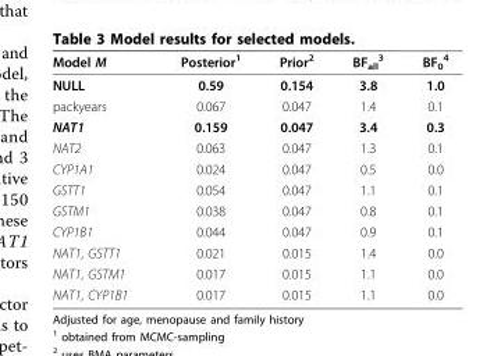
<table><thead><tr><td>Model M</td><td>Posterior<sup>1</sup></td><td>Prior<sup>2</sup></td><td>BF<sub>all</sub> <sup>3</sup></td><td>BF<sub>0</sub> <sup>4</sup></td></tr></thead><tbody><tr><td>NULL</td><td>0.59</td><td>0.154</td><td>3.8</td><td>1.0</td></tr><tr><td>packyears</td><td>0.067</td><td>0.047</td><td>1.4</td><td>0.1</td></tr><tr><td>NAT1</td><td>0.159</td><td>0.047</td><td>3.4</td><td>0.3</td></tr><tr><td>NAT2</td><td>0.063</td><td>0.047</td><td>1.3</td><td>0.1</td></tr><tr><td>CYP1A1</td><td>0.024</td><td>0.047</td><td>0.5</td><td>0.0</td></tr><tr><td>GSTT1</td><td>0.054</td><td>0.047</td><td>1.1</td><td>0.1</td></tr><tr><td>GSTM1</td><td>0.038</td><td>0.047</td><td>0.8</td><td>0.1</td></tr><tr><td>CYP1B1</td><td>0.044</td><td>0.047</td><td>0.9</td><td>0.1</td></tr><tr><td>NAT1, GSTT1</td><td>0.021</td><td>0.015</td><td>1.4</td><td>0.0</td></tr><tr><td>NAT1, GSTM1</td><td>0.017</td><td>0.015</td><td>1.1</td><td>0.0</td></tr><tr><td>NAT1, CYP1B1</td><td>0.017</td><td>0.015</td><td>1.1</td><td>0.0</td></tr></tbody></table>